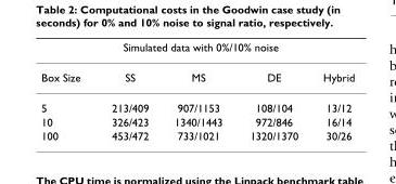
<table><thead><tr><td colspan="5">Simulated data with 0%/10% noise</td></tr><tr><td>Box Size</td><td>SS</td><td>MS</td><td>DE</td><td>Hybrid</td></tr></thead><tbody><tr><td>5</td><td>213/409</td><td>907/1153</td><td>108/104</td><td>13/12</td></tr><tr><td>10</td><td>326/423</td><td>1340/1443</td><td>972/846</td><td>16/14</td></tr><tr><td>100</td><td>453/472</td><td>733/1021</td><td>1320/1370</td><td>30/26</td></tr></tbody></table>